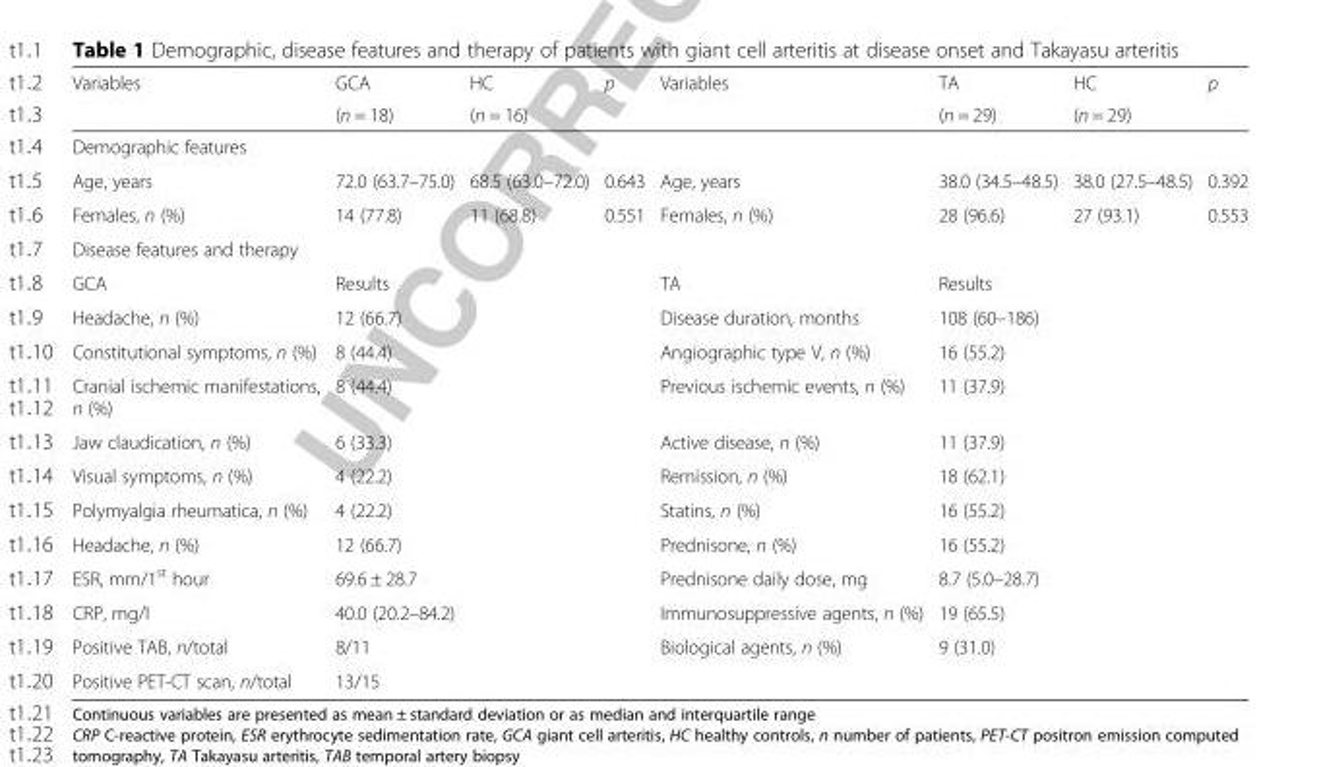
<table><thead><tr><td rowspan="2">Variables</td><td rowspan="2">GCA (n = 18)</td><td rowspan="2">HC (n = 16)</td><td rowspan="2">p</td><td rowspan="2">Variables</td><td rowspan="2">TA (n = 29)</td><td rowspan="2">HC (n = 29)</td><td rowspan="2">p</td></tr><tr></tr></thead><tbody><tr><td colspan="8">Demographic features</td></tr><tr><td>Age, years</td><td>72.0 (63.7–75.0)</td><td>68.5 (63.0–72.0)</td><td>0.643</td><td>Age, years</td><td>38.0 (34.5–48.5)</td><td>38.0 (27.5–48.5)</td><td>0.392</td></tr><tr><td>Females, n (%)</td><td>14 (77.8)</td><td>11 (68.8)</td><td>0.551</td><td>Females, n (%)</td><td>28 (96.6)</td><td>27 (93.1)</td><td>0.553</td></tr><tr><td colspan="8">Disease features and therapy</td></tr><tr><td>GCA</td><td colspan="3">Results</td><td>TA</td><td colspan="3">Results</td></tr><tr><td>Headache, n (%)</td><td colspan="3">12 (66.7)</td><td>Disease duration, months</td><td colspan="3">108 (60–186)</td></tr><tr><td>Constitutional symptoms, n (%)</td><td colspan="3">8 (44.4)</td><td>Angiographic type V, n (%)</td><td colspan="3">16 (55.2)</td></tr><tr><td>Cranial ischemic manifestations, n (%)</td><td colspan="3">8 (44.4)</td><td>Previous ischemic events, n (%)</td><td colspan="3">11 (37.9)</td></tr><tr><td>Jaw claudication, n (%)</td><td colspan="3">6 (33.3)</td><td>Active disease, n (%)</td><td colspan="3">11 (37.9)</td></tr><tr><td>Visual symptoms, n (%)</td><td colspan="3">4 (22.2)</td><td>Remission, n (%)</td><td colspan="3">18 (62.1)</td></tr><tr><td>Polymyalgia rheumatica, n (%)</td><td colspan="3">4 (22.2)</td><td>Statins, n (%)</td><td colspan="3">16 (55.2)</td></tr><tr><td>Headache, n (%)</td><td colspan="3">12 (66.7)</td><td>Prednisone, n (%)</td><td colspan="3">16 (55.2)</td></tr><tr><td>ESR, mm/1<sup>st</sup> hour</td><td colspan="3">69.6 ± 28.7</td><td>Prednisone daily dose, mg</td><td colspan="3">8.7 (5.0–28.7)</td></tr><tr><td>CRP, mg/l</td><td colspan="3">40.0 (20.2–84.2)</td><td>Immunosuppressive agents, n (%)</td><td colspan="3">19 (65.5)</td></tr><tr><td>Positive TAB, n/total</td><td colspan="3">8/11</td><td>Biological agents, n (%)</td><td colspan="3">9 (31.0)</td></tr><tr><td>Positive PET-CT scan, n/total</td><td colspan="3">13/15</td><td></td><td colspan="3"></td></tr></tbody></table>